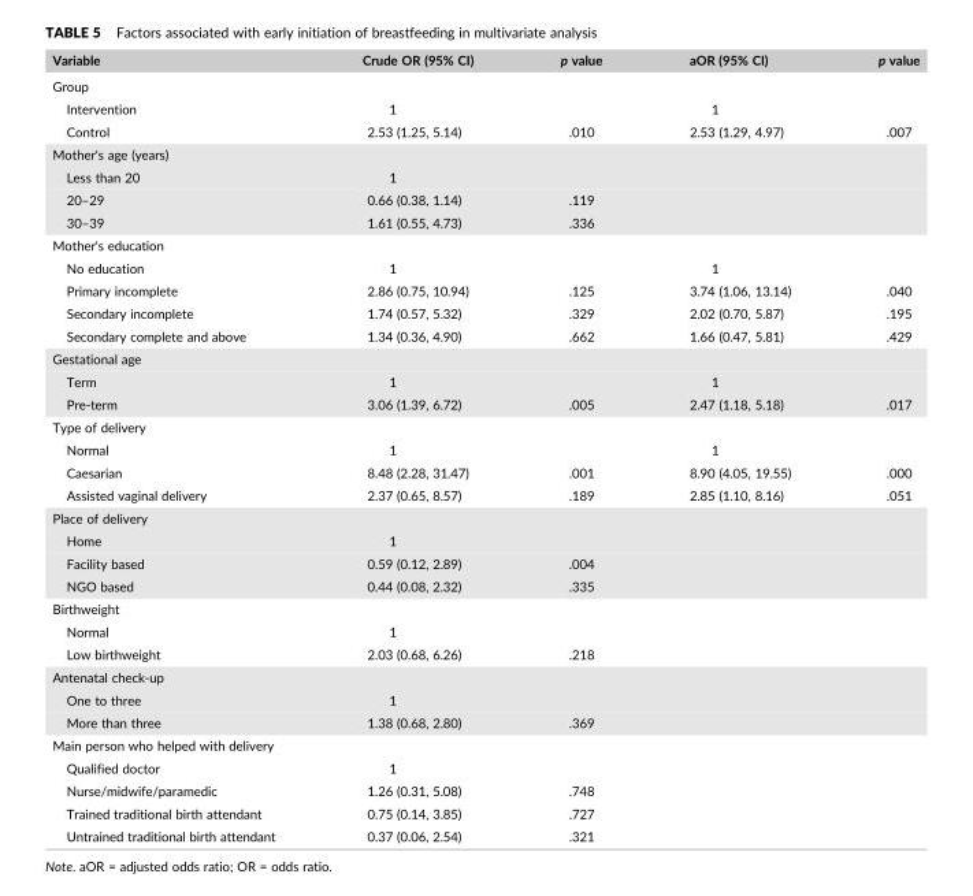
<table><thead><tr><td>Variable</td><td>Crude OR (95% CI)</td><td>p value</td><td>aOR (95% CI)</td><td>p value</td></tr></thead><tbody><tr><td colspan="5">Group</td></tr><tr><td>Intervention</td><td>1</td><td></td><td>1</td><td></td></tr><tr><td>Control</td><td>2.53 (1.25, 5.14)</td><td>.010</td><td>2.53 (1.29, 4.97)</td><td>.007</td></tr><tr><td colspan="5">Mother&#x27;s age (years)</td></tr><tr><td>Less than 20</td><td>1</td><td></td><td></td><td></td></tr><tr><td>20–29</td><td>0.66 (0.38, 1.14)</td><td>.119</td><td></td><td></td></tr><tr><td>30–39</td><td>1.61 (0.55, 4.73)</td><td>.336</td><td></td><td></td></tr><tr><td colspan="5">Mother&#x27;s education</td></tr><tr><td>No education</td><td>1</td><td></td><td>1</td><td></td></tr><tr><td>Primary incomplete</td><td>2.86 (0.75, 10.94)</td><td>.125</td><td>3.74 (1.06, 13.14)</td><td>.040</td></tr><tr><td>Secondary incomplete</td><td>1.74 (0.57, 5.32)</td><td>.329</td><td>2.02 (0.70, 5.87)</td><td>.195</td></tr><tr><td>Secondary complete and above</td><td>1.34 (0.36, 4.90)</td><td>.662</td><td>1.66 (0.47, 5.81)</td><td>.429</td></tr><tr><td colspan="5">Gestational age</td></tr><tr><td>Term</td><td>1</td><td></td><td>1</td><td></td></tr><tr><td>Pre‐term</td><td>3.06 (1.39, 6.72)</td><td>.005</td><td>2.47 (1.18, 5.18)</td><td>.017</td></tr><tr><td colspan="5">Type of delivery</td></tr><tr><td>Normal</td><td>1</td><td></td><td>1</td><td></td></tr><tr><td>Caesarian</td><td>8.48 (2.28, 31.47)</td><td>.001</td><td>8.90 (4.05, 19.55)</td><td>.000</td></tr><tr><td>Assisted vaginal delivery</td><td>2.37 (0.65, 8.57)</td><td>.189</td><td>2.85 (1.10, 8.16)</td><td>.051</td></tr><tr><td colspan="5">Place of delivery</td></tr><tr><td>Home</td><td>1</td><td></td><td></td><td></td></tr><tr><td>Facility based</td><td>0.59 (0.12, 2.89)</td><td>.004</td><td></td><td></td></tr><tr><td>NGO based</td><td>0.44 (0.08, 2.32)</td><td>.335</td><td></td><td></td></tr><tr><td colspan="5">Birthweight</td></tr><tr><td>Normal</td><td>1</td><td></td><td></td><td></td></tr><tr><td>Low birthweight</td><td>2.03 (0.68, 6.26)</td><td>.218</td><td></td><td></td></tr><tr><td colspan="5">Antenatal check‐up</td></tr><tr><td>One to three</td><td>1</td><td></td><td></td><td></td></tr><tr><td>More than three</td><td>1.38 (0.68, 2.80)</td><td>.369</td><td></td><td></td></tr><tr><td colspan="5">Main person who helped with delivery</td></tr><tr><td>Qualified doctor</td><td>1</td><td></td><td></td><td></td></tr><tr><td>Nurse/midwife/paramedic</td><td>1.26 (0.31, 5.08)</td><td>.748</td><td></td><td></td></tr><tr><td>Trained traditional birth attendant</td><td>0.75 (0.14, 3.85)</td><td>.727</td><td></td><td></td></tr><tr><td>Untrained traditional birth attendant</td><td>0.37 (0.06, 2.54)</td><td>.321</td><td></td><td></td></tr></tbody></table>